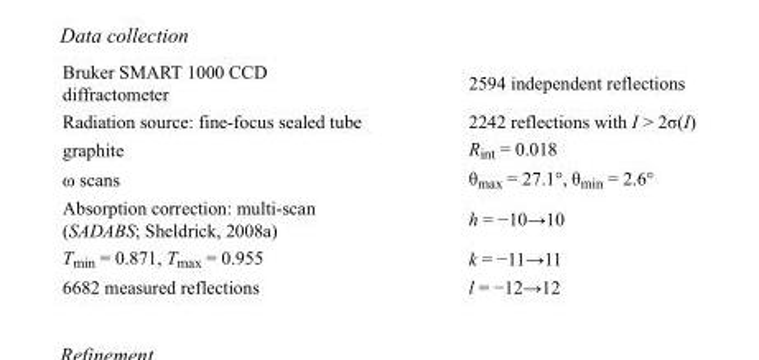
<table><tbody><tr><td>Bruker SMART 1000 CCD diffractometer</td><td>2594 independent reflections</td></tr><tr><td>Radiation source: fine-focus sealed tube</td><td>2242 reflections with I &gt; 2σ(I)</td></tr><tr><td>graphite</td><td>R<sub>int</sub> = 0.018</td></tr><tr><td>ω scans</td><td>θ<sub>max</sub> = 27.1°, θ<sub>min</sub> = 2.6°</td></tr><tr><td>Absorption correction: multi-scan (SADABS; Sheldrick, 2008a)</td><td>h = −10→10</td></tr><tr><td>T<sub>min</sub> = 0.871, T<sub>max</sub> = 0.955</td><td>k = −11→11</td></tr><tr><td>6682 measured reflections</td><td>l = −12→12</td></tr></tbody></table>